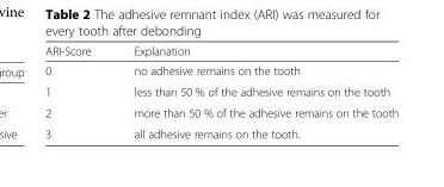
<table><thead><tr><td>ARI-Score</td><td>Explanation</td></tr></thead><tbody><tr><td>0</td><td>no adhesive remains on the tooth</td></tr><tr><td>1</td><td>less than 50 % of the adhesive remains on the tooth</td></tr><tr><td>2</td><td>more than 50 % of the adhesive remains on the tooth</td></tr><tr><td>3</td><td>all adhesive remains on the tooth.</td></tr></tbody></table>